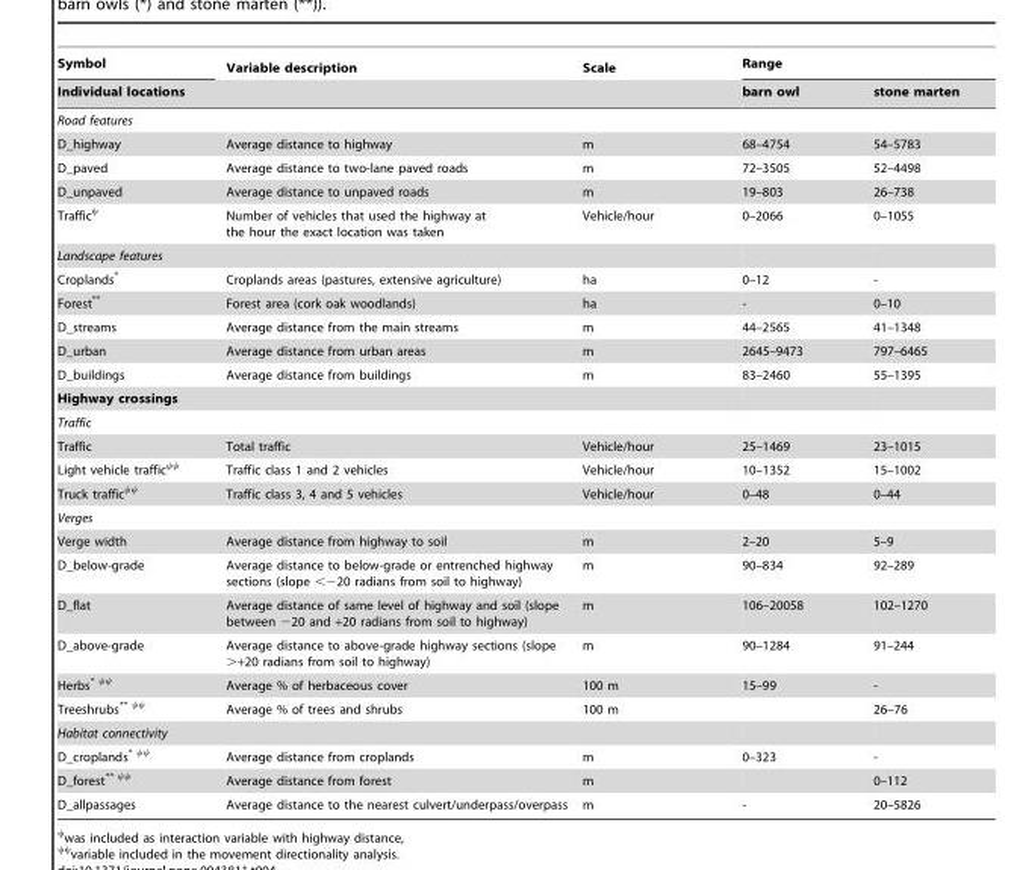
<table><thead><tr><td>Symbol</td><td>Variable description</td><td rowspan="2">Scale</td><td colspan="2">Range</td></tr><tr><td colspan="2">Individual locations</td><td>barn owl</td><td>stone marten</td></tr></thead><tbody><tr><td colspan="5">Road features</td></tr><tr><td>D_highway</td><td>Average distance to highway</td><td>m</td><td>68–4754</td><td>54–5783</td></tr><tr><td>D_paved</td><td>Average distance to two-lane paved roads</td><td>m</td><td>72–3505</td><td>52–4498</td></tr><tr><td>D_unpaved</td><td>Average distance to unpaved roads</td><td>m</td><td>19–803</td><td>26–738</td></tr><tr><td>Trafficψ</td><td>Number of vehicles that used the highway at the hour the exact location was taken</td><td>Vehicle/hour</td><td>0–2066</td><td>0–1055</td></tr><tr><td colspan="5">Landscape features</td></tr><tr><td>Croplands*</td><td>Croplands areas (pastures, extensive agriculture)</td><td>ha</td><td>0–12</td><td>-</td></tr><tr><td>Forest**</td><td>Forest area (cork oak woodlands)</td><td>ha</td><td>-</td><td>0–10</td></tr><tr><td>D_streams</td><td>Average distance from the main streams</td><td>m</td><td>44–2565</td><td>41–1348</td></tr><tr><td>D_urban</td><td>Average distance from urban areas</td><td>m</td><td>2645–9473</td><td>797–6465</td></tr><tr><td>D_buildings</td><td>Average distance from buildings</td><td>m</td><td>83–2460</td><td>55–1395</td></tr><tr><td colspan="5">Highway crossings</td></tr><tr><td colspan="5">Traffic</td></tr><tr><td>Traffic</td><td>Total traffic</td><td>Vehicle/hour</td><td>25–1469</td><td>23–1015</td></tr><tr><td>Light vehicle trafficψψ</td><td>Traffic class 1 and 2 vehicles</td><td>Vehicle/hour</td><td>10–1352</td><td>15–1002</td></tr><tr><td>Truck trafficψψ</td><td>Traffic class 3, 4 and 5 vehicles</td><td>Vehicle/hour</td><td>0–48</td><td>0–44</td></tr><tr><td colspan="5">Verges</td></tr><tr><td>Verge width</td><td>Average distance from highway to soil</td><td>m</td><td>2–20</td><td>5–9</td></tr><tr><td>D_below-grade</td><td>Average distance to below-grade or entrenched highway sections (slope &lt;−20 radians from soil to highway)</td><td>m</td><td>90–834</td><td>92–289</td></tr><tr><td>D_flat</td><td>Average distance of same level of highway and soil (slope between −20 and +20 radians from soil to highway)</td><td>m</td><td>106–20058</td><td>102–1270</td></tr><tr><td>D_above-grade</td><td>Average distance to above-grade highway sections (slope &gt;+20 radians from soil to highway)</td><td>m</td><td>90–1284</td><td>91–244</td></tr><tr><td>Herbs* ψψ</td><td>Average % of herbaceous cover</td><td>100 m</td><td>15–99</td><td>-</td></tr><tr><td>Treeshrubs** ψψ</td><td>Average % of trees and shrubs</td><td>100 m</td><td></td><td>26–76</td></tr><tr><td colspan="5">Habitat connectivity</td></tr><tr><td>D_croplands* ψψ</td><td>Average distance from croplands</td><td>m</td><td>0–323</td><td>-</td></tr><tr><td>D_forest** ψψ</td><td>Average distance from forest</td><td>m</td><td></td><td>0–112</td></tr><tr><td>D_allpassages</td><td>Average distance to the nearest culvert/underpass/overpass</td><td>m</td><td>-</td><td>20–5826</td></tr></tbody></table>